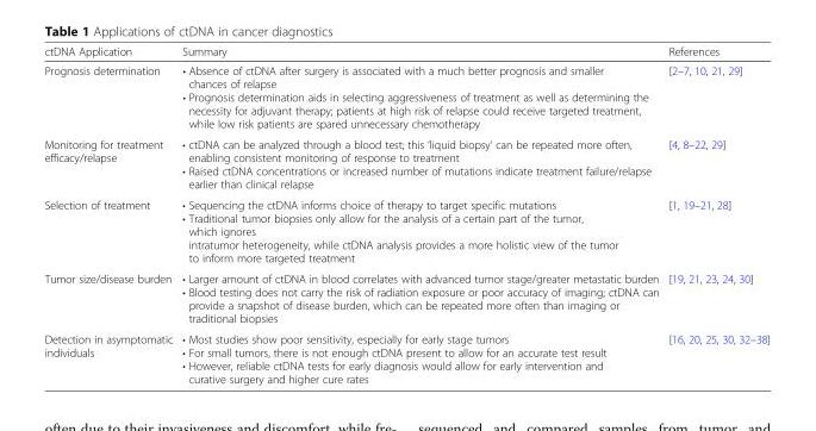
<table><thead><tr><td>ctDNA Application</td><td>Summary</td><td>References</td></tr></thead><tbody><tr><td>Prognosis determination</td><td>• Absence of ctDNA after surgery is associated with a much better prognosis and smaller chances of relapse • Prognosis determination aids in selecting aggressiveness of treatment as well as determining the necessity for adjuvant therapy; patients at high risk of relapse could receive targeted treatment, while low risk patients are spared unnecessary chemotherapy</td><td>[2–7, 10, 21, 29]</td></tr><tr><td>Monitoring for treatment efficacy/relapse</td><td>• ctDNA can be analyzed through a blood test; this ‘liquid biopsy’ can be repeated more often, enabling consistent monitoring of response to treatment • Raised ctDNA concentrations or increased number of mutations indicate treatment failure/relapse earlier than clinical relapse</td><td>[4, 8–22, 29]</td></tr><tr><td>Selection of treatment</td><td>• Sequencing the ctDNA informs choice of therapy to target specific mutations • Traditional tumor biopsies only allow for the analysis of a certain part of the tumor, which ignores intratumor heterogeneity, while ctDNA analysis provides a more holistic view of the tumor to inform more targeted treatment</td><td>[1, 19–21, 28]</td></tr><tr><td>Tumor size/disease burden</td><td>• Larger amount of ctDNA in blood correlates with advanced tumor stage/greater metastatic burden • Blood testing does not carry the risk of radiation exposure or poor accuracy of imaging; ctDNA can provide a snapshot of disease burden, which can be repeated more often than imaging or traditional biopsies</td><td>[19, 21, 23, 24, 30]</td></tr><tr><td>Detection in asymptomatic individuals</td><td>• Most studies show poor sensitivity, especially for early stage tumors • For small tumors, there is not enough ctDNA present to allow for an accurate test result • However, reliable ctDNA tests for early diagnosis would allow for early intervention and curative surgery and higher cure rates</td><td>[16, 20, 25, 30, 32–38]</td></tr></tbody></table>